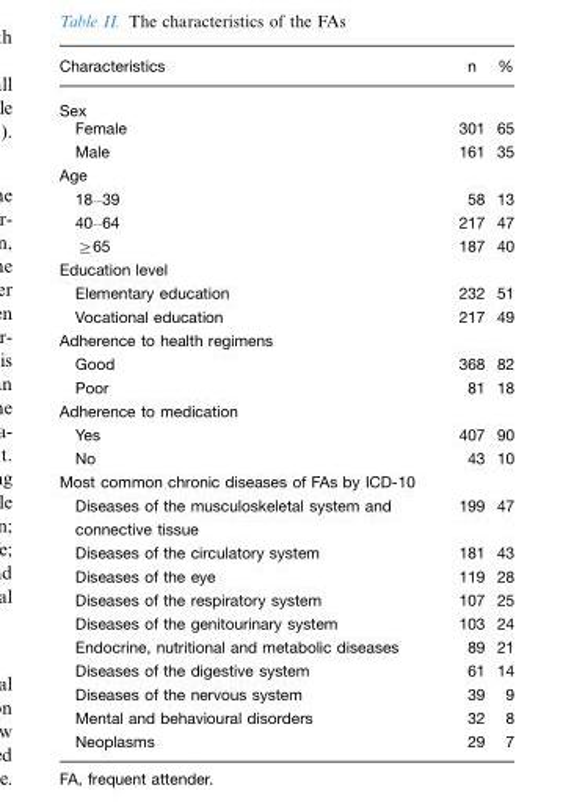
<table><thead><tr><td>Characteristics</td><td>n</td><td>%</td></tr></thead><tbody><tr><td colspan="3">Sex</td></tr><tr><td>Female</td><td>301</td><td>65</td></tr><tr><td>Male</td><td>161</td><td>35</td></tr><tr><td colspan="3">Age</td></tr><tr><td>18–39</td><td>58</td><td>13</td></tr><tr><td>40–64</td><td>217</td><td>47</td></tr><tr><td>≥65</td><td>187</td><td>40</td></tr><tr><td colspan="3">Education level</td></tr><tr><td>Elementary education</td><td>232</td><td>51</td></tr><tr><td>Vocational education</td><td>217</td><td>49</td></tr><tr><td colspan="3">Adherence to health regimens</td></tr><tr><td>Good</td><td>368</td><td>82</td></tr><tr><td>Poor</td><td>81</td><td>18</td></tr><tr><td colspan="3">Adherence to medication</td></tr><tr><td>Yes</td><td>407</td><td>90</td></tr><tr><td>No</td><td>43</td><td>10</td></tr><tr><td colspan="3">Most common chronic diseases of FAs by ICD-10</td></tr><tr><td>Diseases of the musculoskeletal system and connective tissue</td><td>199</td><td>47</td></tr><tr><td>Diseases of the circulatory system</td><td>181</td><td>43</td></tr><tr><td>Diseases of the eye</td><td>119</td><td>28</td></tr><tr><td>Diseases of the respiratory system</td><td>107</td><td>25</td></tr><tr><td>Diseases of the genitourinary system</td><td>103</td><td>24</td></tr><tr><td>Endocrine, nutritional and metabolic diseases</td><td>89</td><td>21</td></tr><tr><td>Diseases of the digestive system</td><td>61</td><td>14</td></tr><tr><td>Diseases of the nervous system</td><td>39</td><td>9</td></tr><tr><td>Mental and behavioural disorders</td><td>32</td><td>8</td></tr><tr><td>Neoplasms</td><td>29</td><td>7</td></tr></tbody></table>